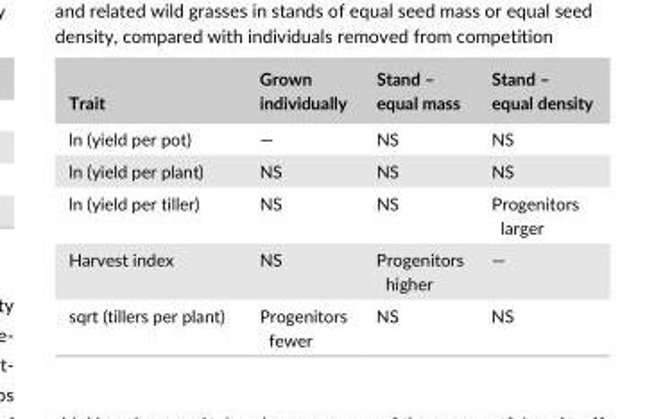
<table><thead><tr><td>Trait</td><td>Grown individually</td><td>Stand – equal mass</td><td>Stand – equal density</td></tr></thead><tbody><tr><td>ln (yield per pot)</td><td>—</td><td>NS</td><td>NS</td></tr><tr><td>ln (yield per plant)</td><td>NS</td><td>NS</td><td>NS</td></tr><tr><td>ln (yield per tiller)</td><td>NS</td><td>NS</td><td>Progenitors larger</td></tr><tr><td>Harvest index</td><td>NS</td><td>Progenitors higher</td><td>—</td></tr><tr><td>sqrt (tillers per plant)</td><td>Progenitors fewer</td><td>NS</td><td>NS</td></tr></tbody></table>